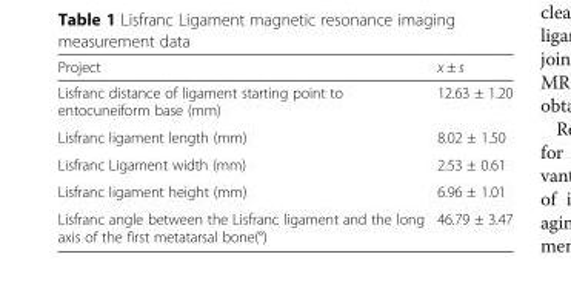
<table><thead><tr><td>Project</td><td>x ± s</td></tr></thead><tbody><tr><td>Lisfranc distance of ligament starting point to entocuneiform base (mm)</td><td>12.63 ± 1.20</td></tr><tr><td>Lisfranc ligament length (mm)</td><td>8.02 ± 1.50</td></tr><tr><td>Lisfranc Ligament width (mm)</td><td>2.53 ± 0.61</td></tr><tr><td>Lisfranc ligament height (mm)</td><td>6.96 ± 1.01</td></tr><tr><td>Lisfranc angle between the Lisfranc ligament and the long axis of the first metatarsal bone(°)</td><td>46.79 ± 3.47</td></tr></tbody></table>